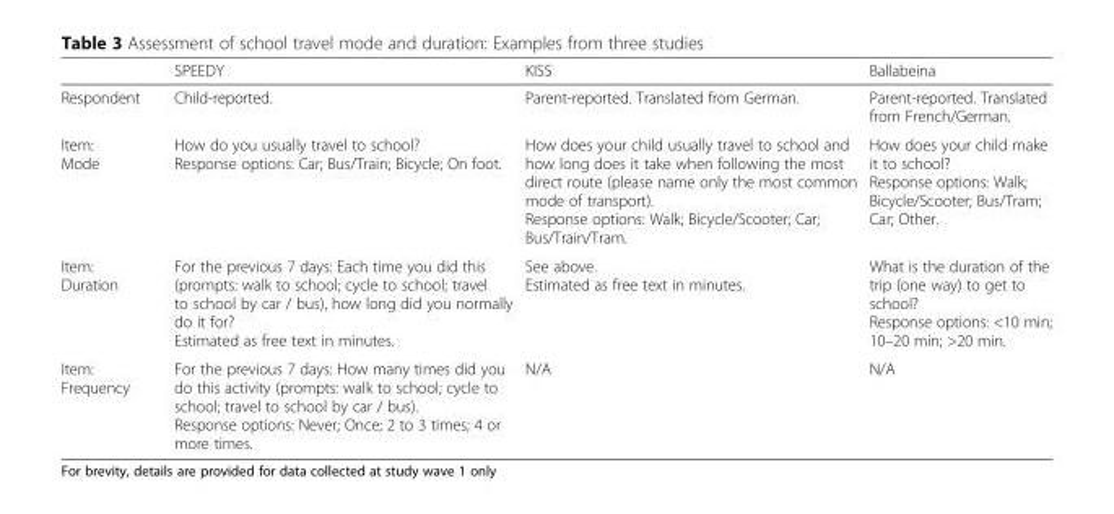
<table><thead><tr><td></td><td>SPEEDY</td><td>KISS</td><td>Ballabeina</td></tr></thead><tbody><tr><td>Respondent</td><td>Child-reported.</td><td>Parent-reported. Translated from German.</td><td>Parent-reported. Translated from French/German.</td></tr><tr><td>Item: Mode</td><td>How do you usually travel to school? Response options: Car; Bus/Train; Bicycle; On foot.</td><td>How does your child usually travel to school and how long does it take when following the most direct route (please name only the most common mode of transport). Response options: Walk; Bicycle/Scooter; Car; Bus/Train/Tram.</td><td>How does your child make it to school? Response options: Walk; Bicycle/Scooter; Bus/Tram; Car; Other.</td></tr><tr><td>Item: Duration</td><td>For the previous 7 days: Each time you did this (prompts: walk to school; cycle to school; travel to school by car / bus), how long did you normally do it for? Estimated as free text in minutes.</td><td>See above. Estimated as free text in minutes.</td><td>What is the duration of the trip (one way) to get to school? Response options: &lt;10 min; 10–20 min; &gt;20 min.</td></tr><tr><td>Item: Frequency</td><td>For the previous 7 days: How many times did you do this activity (prompts: walk to school; cycle to school; travel to school by car / bus). Response options: Never; Once; 2 to 3 times; 4 or more times.</td><td>N/A</td><td>N/A</td></tr></tbody></table>